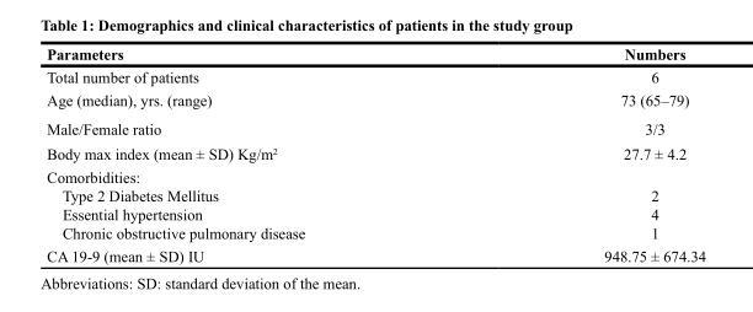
<table><thead><tr><td>Parameters</td><td>Numbers</td></tr></thead><tbody><tr><td>Total number of patients</td><td>6</td></tr><tr><td>Age (median), yrs. (range)</td><td>73 (65–79)</td></tr><tr><td>Male/Female ratio</td><td>3/3</td></tr><tr><td>Body max index (mean ± SD) Kg/m<sup>2</sup></td><td>27.7 ± 4.2</td></tr><tr><td colspan="2">Comorbidities:</td></tr><tr><td>Type 2 Diabetes Mellitus</td><td>2</td></tr><tr><td>Essential hypertension</td><td>4</td></tr><tr><td>Chronic obstructive pulmonary disease</td><td>1</td></tr><tr><td>CA 19-9 (mean ± SD) IU</td><td>948.75 ± 674.34</td></tr></tbody></table>